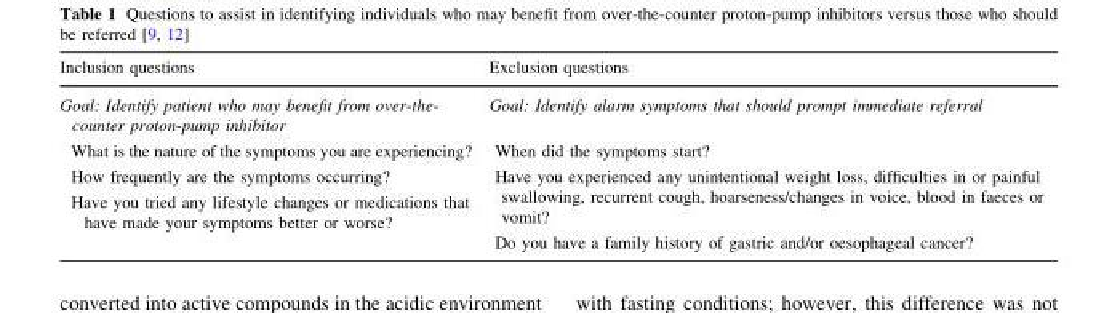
<table><thead><tr><td>Inclusion questions</td><td>Exclusion questions</td></tr></thead><tbody><tr><td>Goal: Identify patient who may benefit from over-the- counter proton-pump inhibitor</td><td>Goal: Identify alarm symptoms that should prompt immediate referral</td></tr><tr><td>What is the nature of the symptoms you are experiencing? How frequently are the symptoms occurring? Have you tried any lifestyle changes or medications that have made your symptoms better or worse?</td><td>When did the symptoms start? Have you experienced any unintentional weight loss, difficulties in or painful swallowing, recurrent cough, hoarseness/changes in voice, blood in faeces or vomit? Do you have a family history of gastric and/or oesophageal cancer?</td></tr></tbody></table>